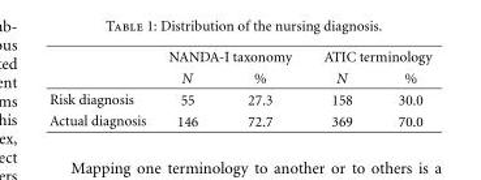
<table><thead><tr><td rowspan="2"></td><td colspan="2">NANDA-I taxonomy</td><td colspan="2">ATIC terminology</td></tr><tr><td>N</td><td>%</td><td>N</td><td>%</td></tr></thead><tbody><tr><td>Risk diagnosis</td><td>55</td><td>27.3</td><td>158</td><td>30.0</td></tr><tr><td>Actual diagnosis</td><td>146</td><td>72.7</td><td>369</td><td>70.0</td></tr></tbody></table>